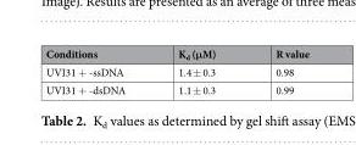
<table><thead><tr><td>Conditions</td><td>K<sub>d</sub> (μM)</td><td>R value</td></tr></thead><tbody><tr><td>UVI31 + -ssDNA</td><td>1.4 ± 0.3</td><td>0.98</td></tr><tr><td>UVI31 + -dsDNA</td><td>1.1 ± 0.3</td><td>0.99</td></tr></tbody></table>